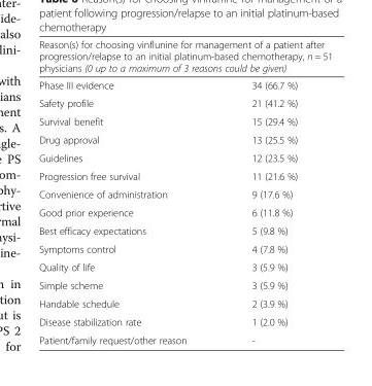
<table><thead><tr><td colspan="2">Reason(s) for choosing vinflunine for management of a patient after progression/relapse to an initial platinum-based chemotherapy, n = 51 physicians (0 up to a maximum of 3 reasons could be given)</td></tr><tr><td>Phase III evidence</td><td>34 (66.7 %)</td></tr></thead><tbody><tr><td>Safety profile</td><td>21 (41.2 %)</td></tr><tr><td>Survival benefit</td><td>15 (29.4 %)</td></tr><tr><td>Drug approval</td><td>13 (25.5 %)</td></tr><tr><td>Guidelines</td><td>12 (23.5 %)</td></tr><tr><td>Progression free survival</td><td>11 (21.6 %)</td></tr><tr><td>Convenience of administration</td><td>9 (17.6 %)</td></tr><tr><td>Good prior experience</td><td>6 (11.8 %)</td></tr><tr><td>Best efficacy expectations</td><td>5 (9.8 %)</td></tr><tr><td>Symptoms control</td><td>4 (7.8 %)</td></tr><tr><td>Quality of life</td><td>3 (5.9 %)</td></tr><tr><td>Simple scheme</td><td>3 (5.9 %)</td></tr><tr><td>Handable schedule</td><td>2 (3.9 %)</td></tr><tr><td>Disease stabilization rate</td><td>1 (2.0 %)</td></tr><tr><td>Patient/family request/other reason</td><td>-</td></tr></tbody></table>